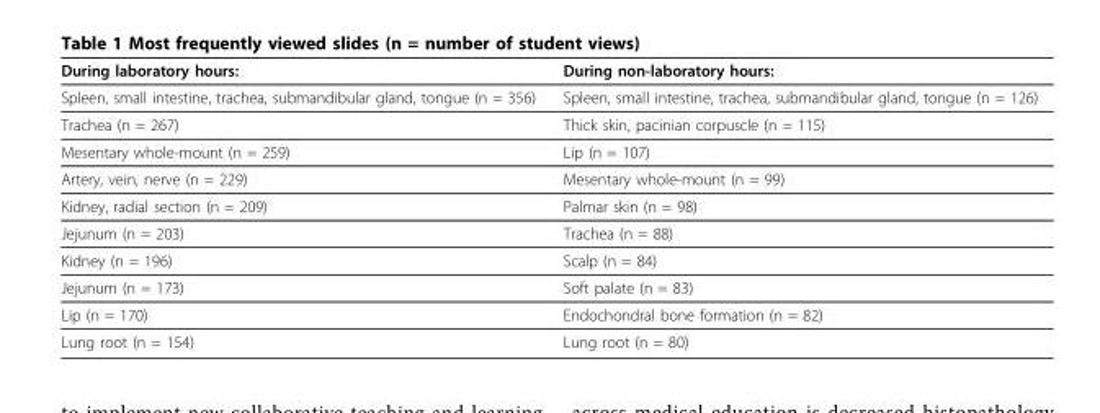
<table><thead><tr><td>During laboratory hours:</td><td>During non-laboratory hours:</td></tr></thead><tbody><tr><td>Spleen, small intestine, trachea, submandibular gland, tongue (n = 356)</td><td>Spleen, small intestine, trachea, submandibular gland, tongue (n = 126)</td></tr><tr><td>Trachea (n = 267)</td><td>Thick skin, pacinian corpuscle (n = 115)</td></tr><tr><td>Mesentary whole-mount (n = 259)</td><td>Lip (n = 107)</td></tr><tr><td>Artery, vein, nerve (n = 229)</td><td>Mesentary whole-mount (n = 99)</td></tr><tr><td>Kidney, radial section (n = 209)</td><td>Palmar skin (n = 98)</td></tr><tr><td>Jejunum (n = 203)</td><td>Trachea (n = 88)</td></tr><tr><td>Kidney (n = 196)</td><td>Scalp (n = 84)</td></tr><tr><td>Jejunum (n = 173)</td><td>Soft palate (n = 83)</td></tr><tr><td>Lip (n = 170)</td><td>Endochondral bone formation (n = 82)</td></tr><tr><td>Lung root (n = 154)</td><td>Lung root (n = 80)</td></tr></tbody></table>